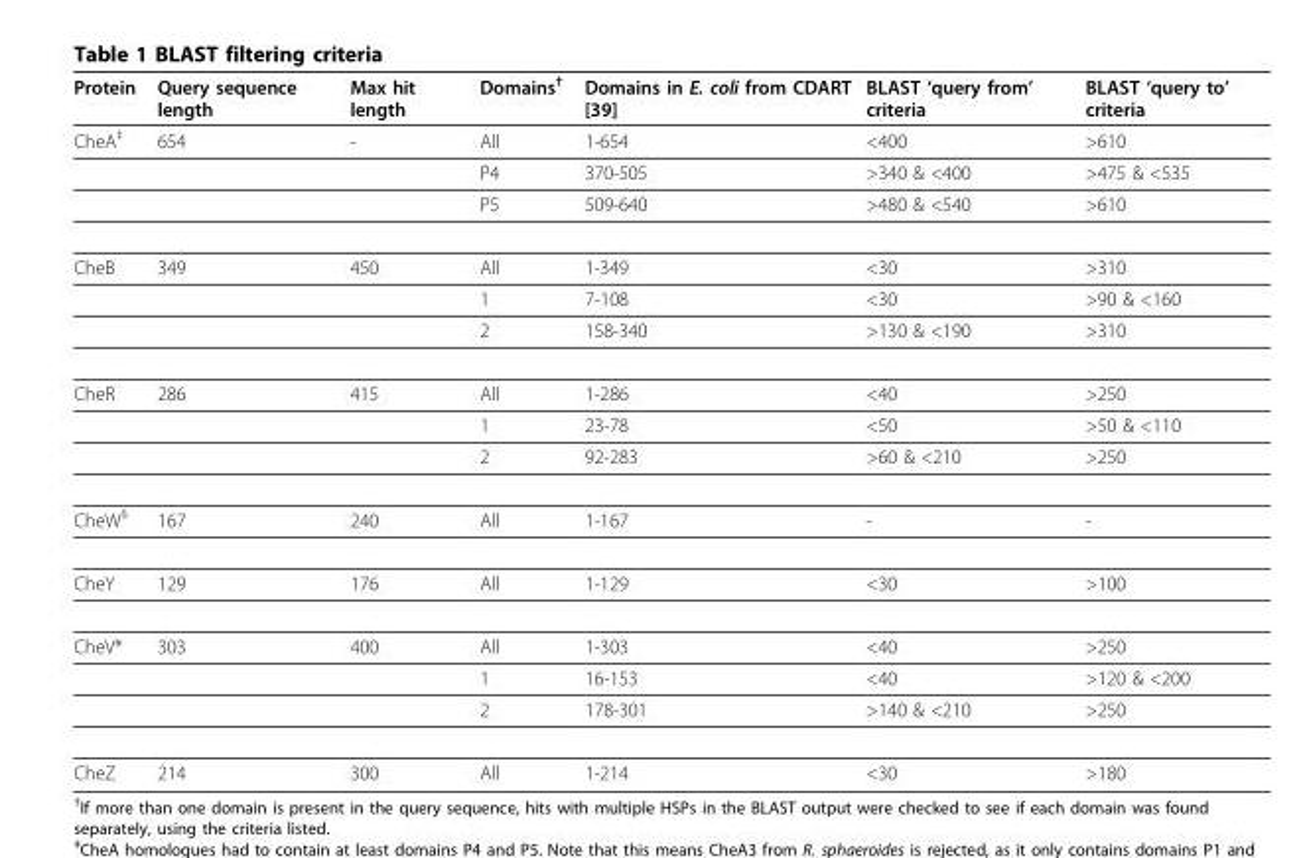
<table><thead><tr><td>Protein</td><td>Query sequence length</td><td>Max hit length</td><td>Domains†</td><td>Domains in E. coli from CDART [39]</td><td>BLAST ‘query from’ criteria</td><td>BLAST ‘query to’ criteria</td></tr></thead><tbody><tr><td rowspan="3">CheA‡</td><td>654</td><td>-</td><td>All</td><td>1-654</td><td>&lt;400</td><td>&gt;610</td></tr><tr><td></td><td></td><td>P4</td><td>370-505</td><td>&gt;340 &amp; &lt;400</td><td>&gt;475 &amp; &lt;535</td></tr><tr><td></td><td></td><td>P5</td><td>509-640</td><td>&gt;480 &amp; &lt;540</td><td>&gt;610</td></tr><tr><td rowspan="3">CheB</td><td>349</td><td>450</td><td>All</td><td>1-349</td><td>&lt;30</td><td>&gt;310</td></tr><tr><td></td><td></td><td>1</td><td>7-108</td><td>&lt;30</td><td>&gt;90 &amp; &lt;160</td></tr><tr><td></td><td></td><td>2</td><td>158-340</td><td>&gt;130 &amp; &lt;190</td><td>&gt;310</td></tr><tr><td rowspan="3">CheR</td><td>286</td><td>415</td><td>All</td><td>1-286</td><td>&lt;40</td><td>&gt;250</td></tr><tr><td></td><td></td><td>1</td><td>23-78</td><td>&lt;50</td><td>&gt;50 &amp; &lt;110</td></tr><tr><td></td><td></td><td>2</td><td>92-283</td><td>&gt;60 &amp; &lt;210</td><td>&gt;250</td></tr><tr><td>CheW§</td><td>167</td><td>240</td><td>All</td><td>1-167</td><td>-</td><td>-</td></tr><tr><td>CheY</td><td>129</td><td>176</td><td>All</td><td>1-129</td><td>&lt;30</td><td>&gt;100</td></tr><tr><td rowspan="3">CheV*</td><td>303</td><td>400</td><td>All</td><td>1-303</td><td>&lt;40</td><td>&gt;250</td></tr><tr><td></td><td></td><td>1</td><td>16-153</td><td>&lt;40</td><td>&gt;120 &amp; &lt;200</td></tr><tr><td></td><td></td><td>2</td><td>178-301</td><td>&gt;140 &amp; &lt;210</td><td>&gt;250</td></tr><tr><td>CheZ</td><td>214</td><td>300</td><td>All</td><td>1-214</td><td>&lt;30</td><td>&gt;180</td></tr></tbody></table>